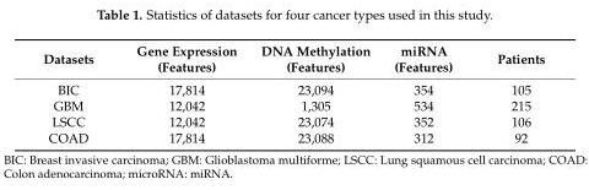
<table><thead><tr><td>Datasets</td><td>Gene Expression (Features)</td><td>DNA Methylation (Features)</td><td>miRNA (Features)</td><td>Patients</td></tr></thead><tbody><tr><td>BIC</td><td>17,814</td><td>23,094</td><td>354</td><td>105</td></tr><tr><td>GBM</td><td>12,042</td><td>1,305</td><td>534</td><td>215</td></tr><tr><td>LSCC</td><td>12,042</td><td>23,074</td><td>352</td><td>106</td></tr><tr><td>COAD</td><td>17,814</td><td>23,088</td><td>312</td><td>92</td></tr></tbody></table>